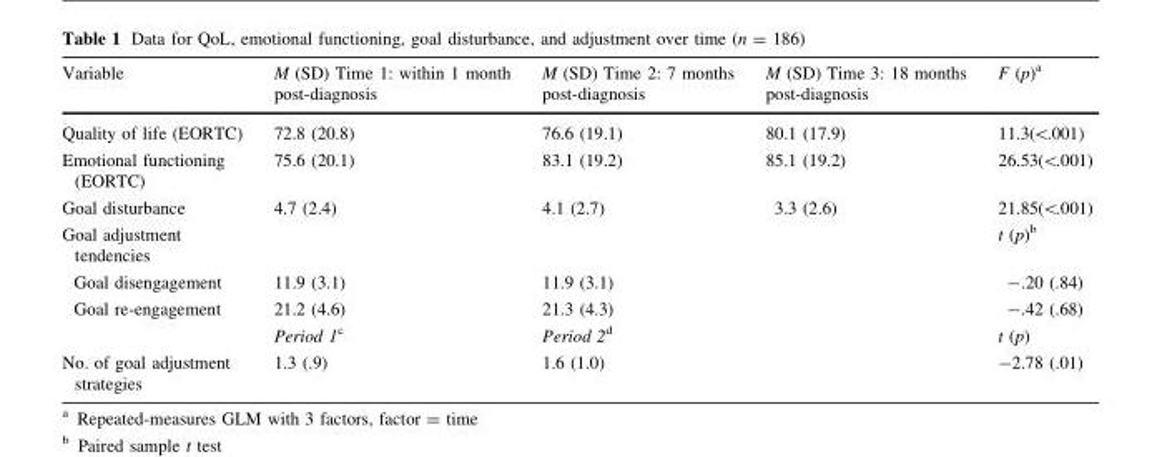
<table><thead><tr><td>Variable</td><td>M (SD) Time 1: within 1 month post-diagnosis</td><td>M (SD) Time 2: 7 months post-diagnosis</td><td>M (SD) Time 3: 18 months post-diagnosis</td><td>F (p)<sup>a</sup></td></tr></thead><tbody><tr><td>Quality of life (EORTC)</td><td>72.8 (20.8)</td><td>76.6 (19.1)</td><td>80.1 (17.9)</td><td>11.3(&lt;.001)</td></tr><tr><td>Emotional functioning (EORTC)</td><td>75.6 (20.1)</td><td>83.1 (19.2)</td><td>85.1 (19.2)</td><td>26.53(&lt;.001)</td></tr><tr><td>Goal disturbance</td><td>4.7 (2.4)</td><td>4.1 (2.7)</td><td>3.3 (2.6)</td><td>21.85(&lt;.001)</td></tr><tr><td>Goal adjustment tendencies</td><td></td><td></td><td></td><td>t (p)<sup>b</sup></td></tr><tr><td>Goal disengagement</td><td>11.9 (3.1)</td><td>11.9 (3.1)</td><td></td><td>-.20 (.84)</td></tr><tr><td rowspan="2">Goal re-engagement</td><td>21.2 (4.6)</td><td>21.3 (4.3)</td><td></td><td>-.42 (.68)</td></tr><tr><td>Period 1<sup>c</sup></td><td>Period 2<sup>d</sup></td><td></td><td>t (p)</td></tr><tr><td>No. of goal adjustment strategies</td><td>1.3 (.9)</td><td>1.6 (1.0)</td><td></td><td>-2.78 (.01)</td></tr></tbody></table>